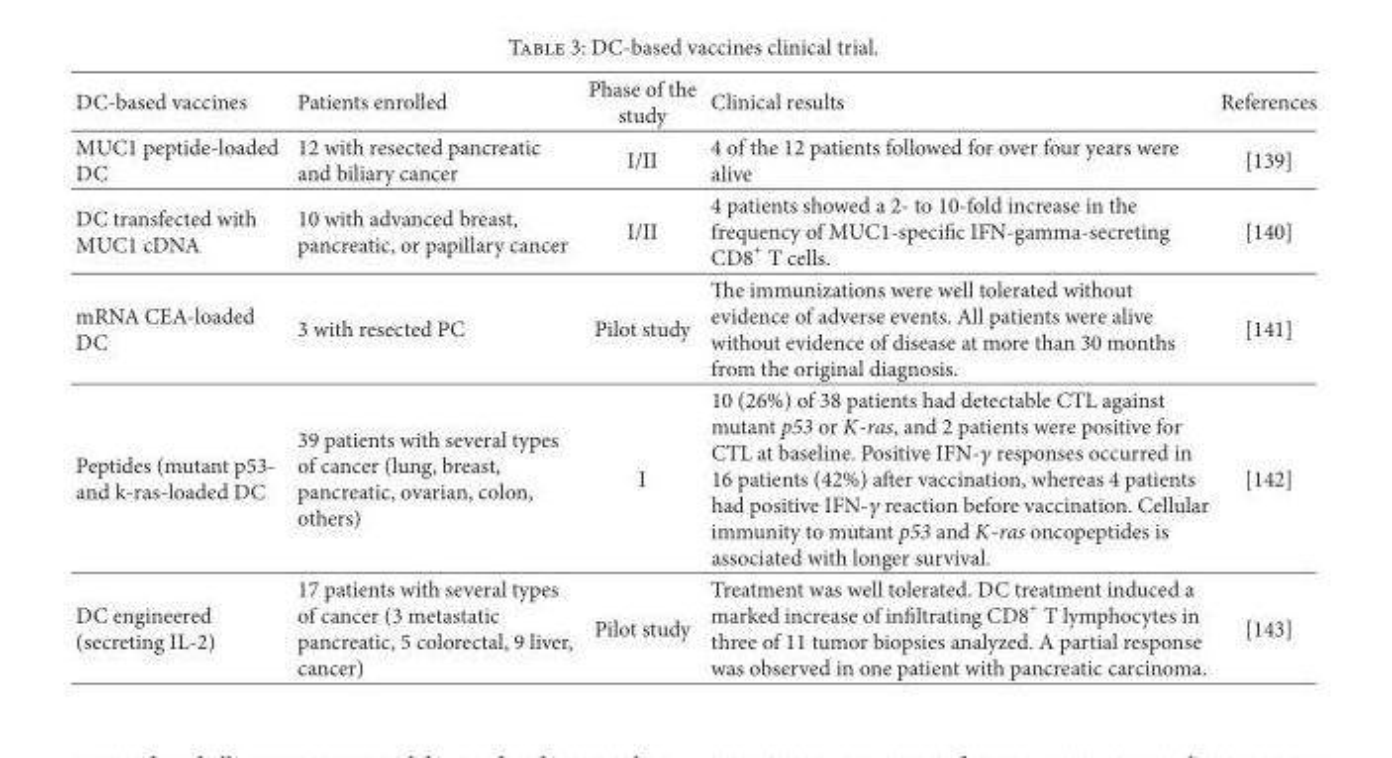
<table><thead><tr><td>DC-based vaccines</td><td>Patients enrolled</td><td>Phase of the study</td><td>Clinical results</td><td>References</td></tr></thead><tbody><tr><td>MUC1 peptide-loaded DC</td><td>12 with resected pancreatic and biliary cancer</td><td>I/II</td><td>4 of the 12 patients followed for over four years were alive</td><td>[139]</td></tr><tr><td>DC transfected with MUC1 cDNA</td><td>10 with advanced breast, pancreatic, or papillary cancer</td><td>I/II</td><td>4 patients showed a 2- to 10-fold increase in the frequency of MUC1-speci�c IFN-gamma-secreting CD8+ T cells.</td><td>[140]</td></tr><tr><td>mRNA CEA-loaded DC</td><td>3 with resected PC</td><td>Pilot study</td><td>e immunizations were well tolerated without evidence of adverse events. All patients were alive without evidence of disease at more than 30 months from the original diagnosis.</td><td>[141]</td></tr><tr><td>Peptides (mutant p53- and k-ras-loaded DC</td><td>39 patients with several types of cancer (lung, breast, pancreatic, ovarian, colon, others)</td><td>I</td><td>10 (26%) of 38 patients had detectable CTL against mutant p53 or K-ras, and 2 patients were positive for CTL at baseline. Positive IFN-𝛾𝛾 responses occurred in 16 patients (42%) aer vaccination, whereas 4 patients had positive IFN-𝛾𝛾 reaction before vaccination. Cellular immunity to mutant p53 and K-ras oncopeptides is associated with longer survival.</td><td>[142]</td></tr><tr><td>DC engineered (secreting IL-2)</td><td>17 patients with several types of cancer (3 metastatic pancreatic, 5 colorectal, 9 liver, cancer)</td><td>Pilot study</td><td>Treatment was well tolerated. DC treatment induced a marked increase of in�ltrating CD8+ T lymphocytes in three of 11 tumor biopsies analyzed. A partial response was observed in one patient with pancreatic carcinoma.</td><td>[143]</td></tr></tbody></table>